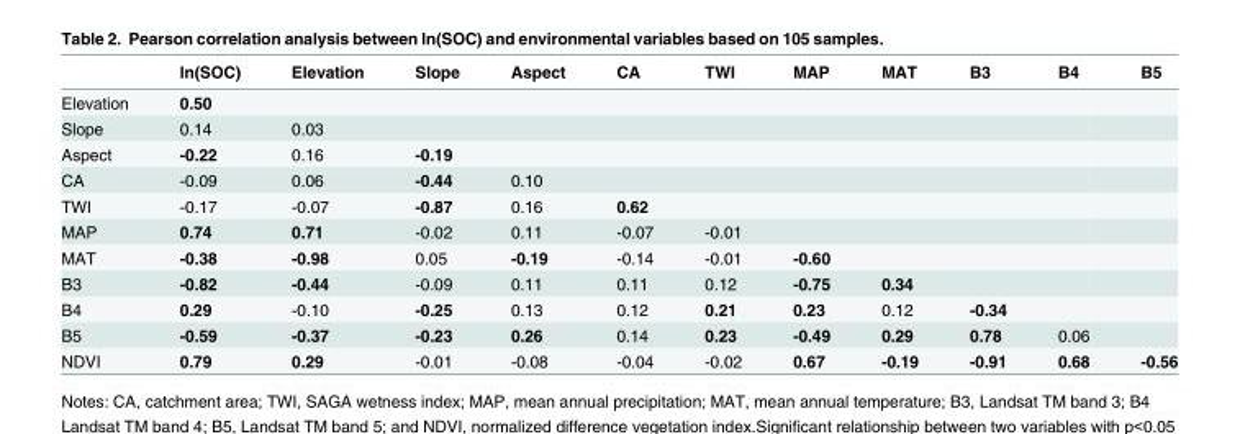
<table><thead><tr><td></td><td>ln(SOC)</td><td>Elevation</td><td>Slope</td><td>Aspect</td><td>CA</td><td>TWI</td><td>MAP</td><td>MAT</td><td>B3</td><td>B4</td><td>B5</td></tr></thead><tbody><tr><td>Elevation</td><td>0.50</td><td></td><td></td><td></td><td></td><td></td><td></td><td></td><td></td><td></td><td></td></tr><tr><td>Slope</td><td>0.14</td><td>0.03</td><td></td><td></td><td></td><td></td><td></td><td></td><td></td><td></td><td></td></tr><tr><td>Aspect</td><td>-0.22</td><td>0.16</td><td>-0.19</td><td></td><td></td><td></td><td></td><td></td><td></td><td></td><td></td></tr><tr><td>CA</td><td>-0.09</td><td>0.06</td><td>-0.44</td><td>0.10</td><td></td><td></td><td></td><td></td><td></td><td></td><td></td></tr><tr><td>TWI</td><td>-0.17</td><td>-0.07</td><td>-0.87</td><td>0.16</td><td>0.62</td><td></td><td></td><td></td><td></td><td></td><td></td></tr><tr><td>MAP</td><td>0.74</td><td>0.71</td><td>-0.02</td><td>0.11</td><td>-0.07</td><td>-0.01</td><td></td><td></td><td></td><td></td><td></td></tr><tr><td>MAT</td><td>-0.38</td><td>-0.98</td><td>0.05</td><td>-0.19</td><td>-0.14</td><td>-0.01</td><td>-0.60</td><td></td><td></td><td></td><td></td></tr><tr><td>B3</td><td>-0.82</td><td>-0.44</td><td>-0.09</td><td>0.11</td><td>0.11</td><td>0.12</td><td>-0.75</td><td>0.34</td><td></td><td></td><td></td></tr><tr><td>B4</td><td>0.29</td><td>-0.10</td><td>-0.25</td><td>0.13</td><td>0.12</td><td>0.21</td><td>0.23</td><td>0.12</td><td>-0.34</td><td></td><td></td></tr><tr><td>B5</td><td>-0.59</td><td>-0.37</td><td>-0.23</td><td>0.26</td><td>0.14</td><td>0.23</td><td>-0.49</td><td>0.29</td><td>0.78</td><td>0.06</td><td></td></tr><tr><td>NDVI</td><td>0.79</td><td>0.29</td><td>-0.01</td><td>-0.08</td><td>-0.04</td><td>-0.02</td><td>0.67</td><td>-0.19</td><td>-0.91</td><td>0.68</td><td>-0.56</td></tr></tbody></table>